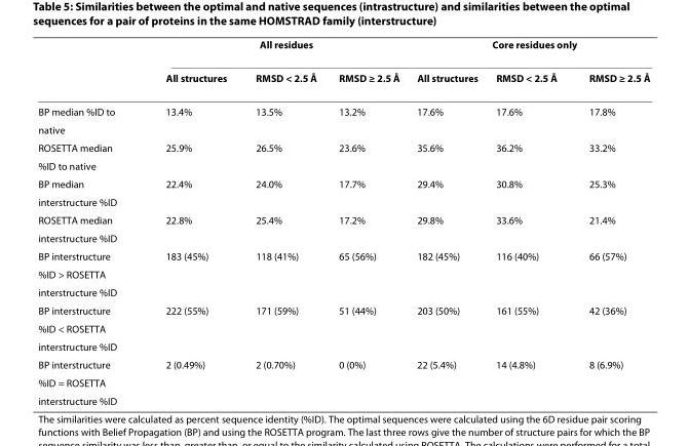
<table><thead><tr><td rowspan="2"></td><td colspan="3">All residues</td><td colspan="3">Core residues only</td></tr><tr><td>All structures</td><td>RMSD &lt; 2.5 Å</td><td>RMSD ≥ 2.5 Å</td><td>All structures</td><td>RMSD &lt; 2.5 Å</td><td>RMSD ≥ 2.5 Å</td></tr></thead><tbody><tr><td>BP median %ID to</td><td>13.4%</td><td>13.5%</td><td>13.2%</td><td>17.6%</td><td>17.6%</td><td>17.8%</td></tr><tr><td colspan="7">native</td></tr><tr><td>ROSETTA median</td><td>25.9%</td><td>26.5%</td><td>23.6%</td><td>35.6%</td><td>36.2%</td><td>33.2%</td></tr><tr><td colspan="7">%ID to native</td></tr><tr><td>BP median</td><td>22.4%</td><td>24.0%</td><td>17.7%</td><td>29.4%</td><td>30.8%</td><td>25.3%</td></tr><tr><td colspan="7">interstructure %ID</td></tr><tr><td>ROSETTA median</td><td>22.8%</td><td>25.4%</td><td>17.2%</td><td>29.8%</td><td>33.6%</td><td>21.4%</td></tr><tr><td colspan="7">interstructure %ID</td></tr><tr><td>BP interstructure</td><td>183 (45%)</td><td>118 (41%)</td><td>65 (56%)</td><td>182 (45%)</td><td>116 (40%)</td><td>66 (57%)</td></tr><tr><td colspan="7">%ID &gt; ROSETTA</td></tr><tr><td colspan="7">interstructure %ID</td></tr><tr><td>BP interstructure</td><td>222 (55%)</td><td>171 (59%)</td><td>51 (44%)</td><td>203 (50%)</td><td>161 (55%)</td><td>42 (36%)</td></tr><tr><td colspan="7">%ID &lt; ROSETTA</td></tr><tr><td colspan="7">interstructure %ID</td></tr><tr><td>BP interstructure</td><td>2 (0.49%)</td><td>2 (0.70%)</td><td>0 (0%)</td><td>22 (5.4%)</td><td>14 (4.8%)</td><td>8 (6.9%)</td></tr><tr><td colspan="7">%ID = ROSETTA</td></tr><tr><td>interstructure %ID</td><td></td><td></td><td></td><td></td><td></td><td></td></tr></tbody></table>